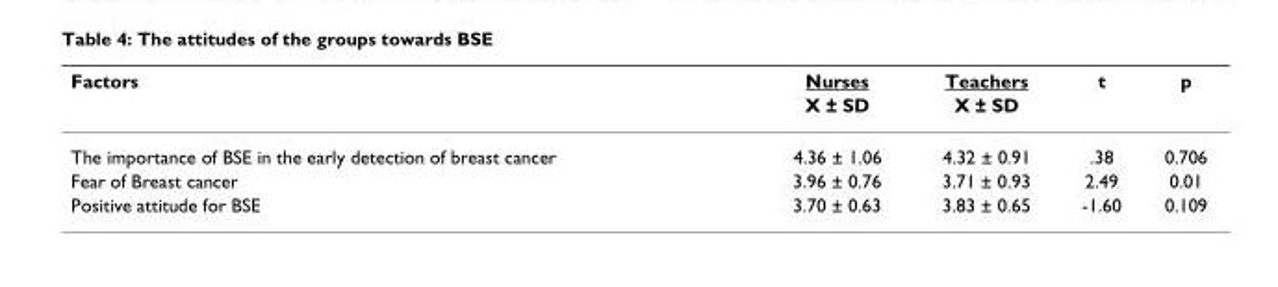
<table><thead><tr><td rowspan="2">Factors</td><td rowspan="2">Nurses X ± SD</td><td rowspan="2">Teachers X ± SD</td><td rowspan="2">t</td><td rowspan="2">p</td></tr><tr></tr></thead><tbody><tr><td>The importance of BSE in the early detection of breast cancer</td><td>4.36 ± 1.06</td><td>4.32 ± 0.91</td><td>.38</td><td>0.706</td></tr><tr><td>Fear of Breast cancer</td><td>3.96 ± 0.76</td><td>3.71 ± 0.93</td><td>2.49</td><td>0.01</td></tr><tr><td>Positive attitude for BSE</td><td>3.70 ± 0.63</td><td>3.83 ± 0.65</td><td>-1.60</td><td>0.109</td></tr></tbody></table>